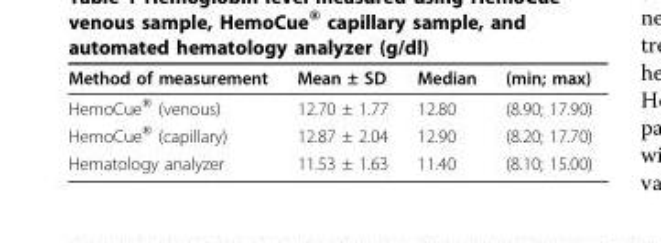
<table><thead><tr><td>Method of measurement</td><td>Mean ± SD</td><td>Median</td><td>(min; max)</td></tr></thead><tbody><tr><td>HemoCue<sup>®</sup> (venous)</td><td>12.70 ± 1.77</td><td>12.80</td><td>(8.90; 17.90)</td></tr><tr><td>HemoCue<sup>®</sup> (capillary)</td><td>12.87 ± 2.04</td><td>12.90</td><td>(8.20; 17.70)</td></tr><tr><td>Hematology analyzer</td><td>11.53 ± 1.63</td><td>11.40</td><td>(8.10; 15.00)</td></tr></tbody></table>